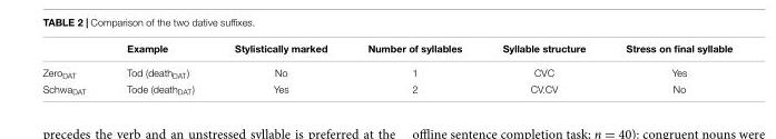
<table><thead><tr><td></td><td>Example</td><td>Stylistically marked</td><td>Number of syllables</td><td>Syllable structure</td><td>Stress on final syllable</td></tr></thead><tbody><tr><td>Zero<sub>DAT</sub></td><td>Tod (death<sub>DAT</sub>)</td><td>No</td><td>1</td><td>CVC</td><td>Yes</td></tr><tr><td>Schwa<sub>DAT</sub></td><td>Tode (death<sub>DAT</sub>)</td><td>Yes</td><td>2</td><td>CV.CV</td><td>No</td></tr></tbody></table>